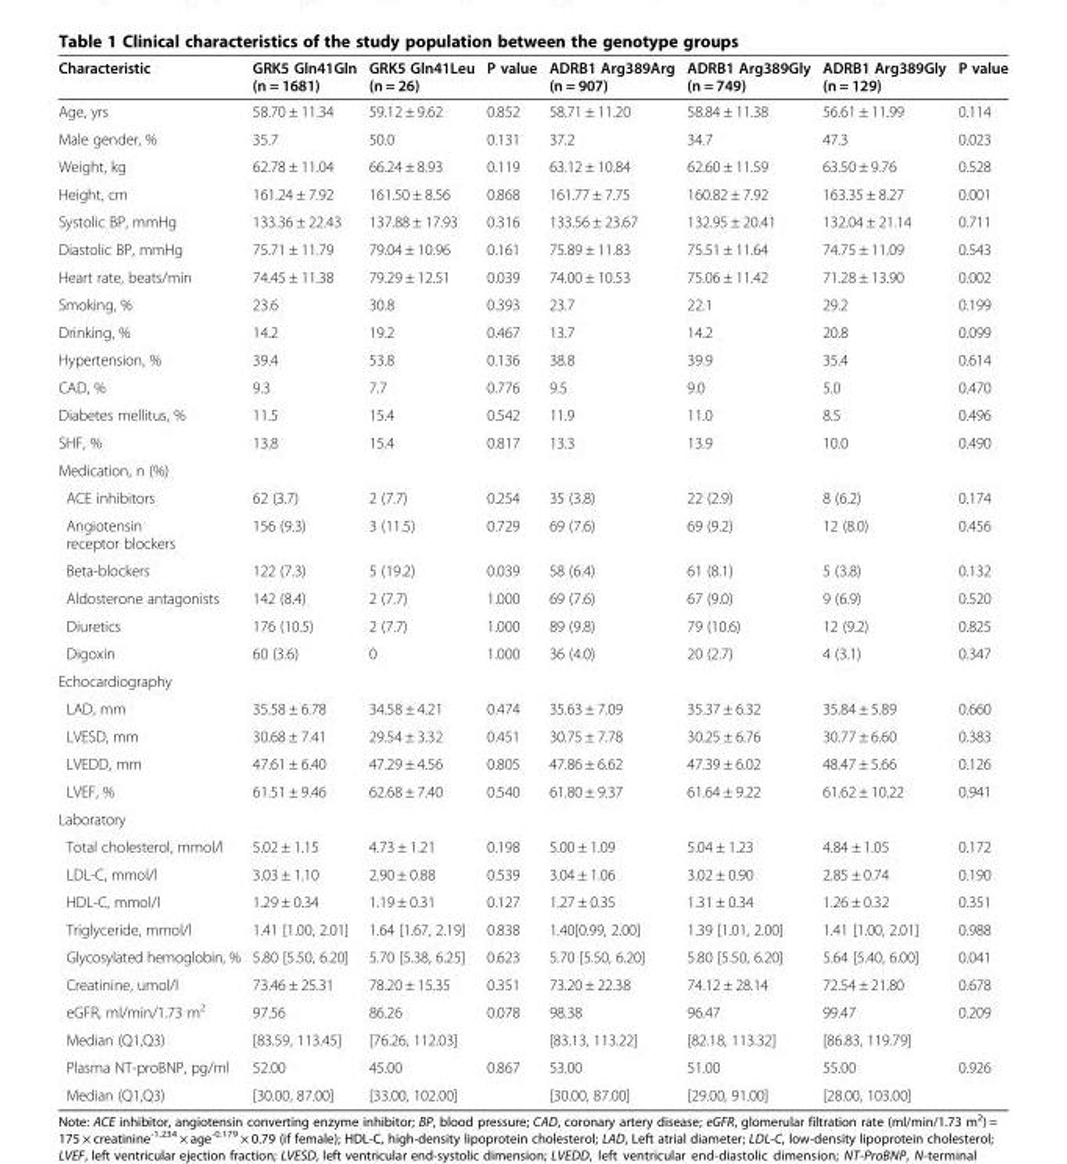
<table><thead><tr><td>Characteristic</td><td>GRK5 Gln41Gln (n = 1681)</td><td>GRK5 Gln41Leu (n = 26)</td><td>P value</td><td>ADRB1 Arg389Arg (n = 907)</td><td>ADRB1 Arg389Gly (n = 749)</td><td>ADRB1 Arg389Gly (n = 129)</td><td>P value</td></tr></thead><tbody><tr><td>Age, yrs</td><td>58.70 ± 11.34</td><td>59.12 ± 9.62</td><td>0.852</td><td>58.71 ± 11.20</td><td>58.84 ± 11.38</td><td>56.61 ± 11.99</td><td>0.114</td></tr><tr><td>Male gender, %</td><td>35.7</td><td>50.0</td><td>0.131</td><td>37.2</td><td>34.7</td><td>47.3</td><td>0.023</td></tr><tr><td>Weight, kg</td><td>62.78 ± 11.04</td><td>66.24 ± 8.93</td><td>0.119</td><td>63.12 ± 10.84</td><td>62.60 ± 11.59</td><td>63.50 ± 9.76</td><td>0.528</td></tr><tr><td>Height, cm</td><td>161.24 ± 7.92</td><td>161.50 ± 8.56</td><td>0.868</td><td>161.77 ± 7.75</td><td>160.82 ± 7.92</td><td>163.35 ± 8.27</td><td>0.001</td></tr><tr><td>Systolic BP, mmHg</td><td>133.36 ± 22.43</td><td>137.88 ± 17.93</td><td>0.316</td><td>133.56 ± 23.67</td><td>132.95 ± 20.41</td><td>132.04 ± 21.14</td><td>0.711</td></tr><tr><td>Diastolic BP, mmHg</td><td>75.71 ± 11.79</td><td>79.04 ± 10.96</td><td>0.161</td><td>75.89 ± 11.83</td><td>75.51 ± 11.64</td><td>74.75 ± 11.09</td><td>0.543</td></tr><tr><td>Heart rate, beats/min</td><td>74.45 ± 11.38</td><td>79.29 ± 12.51</td><td>0.039</td><td>74.00 ± 10.53</td><td>75.06 ± 11.42</td><td>71.28 ± 13.90</td><td>0.002</td></tr><tr><td>Smoking, %</td><td>23.6</td><td>30.8</td><td>0.393</td><td>23.7</td><td>22.1</td><td>29.2</td><td>0.199</td></tr><tr><td>Drinking, %</td><td>14.2</td><td>19.2</td><td>0.467</td><td>13.7</td><td>14.2</td><td>20.8</td><td>0.099</td></tr><tr><td>Hypertension, %</td><td>39.4</td><td>53.8</td><td>0.136</td><td>38.8</td><td>39.9</td><td>35.4</td><td>0.614</td></tr><tr><td>CAD, %</td><td>9.3</td><td>7.7</td><td>0.776</td><td>9.5</td><td>9.0</td><td>5.0</td><td>0.470</td></tr><tr><td>Diabetes mellitus, %</td><td>11.5</td><td>15.4</td><td>0.542</td><td>11.9</td><td>11.0</td><td>8.5</td><td>0.496</td></tr><tr><td>SHF, %</td><td>13.8</td><td>15.4</td><td>0.817</td><td>13.3</td><td>13.9</td><td>10.0</td><td>0.490</td></tr><tr><td colspan="8">Medication, n (%)</td></tr><tr><td>ACE inhibitors</td><td>62 (3.7)</td><td>2 (7.7)</td><td>0.254</td><td>35 (3.8)</td><td>22 (2.9)</td><td>8 (6.2)</td><td>0.174</td></tr><tr><td>Angiotensin receptor blockers</td><td>156 (9.3)</td><td>3 (11.5)</td><td>0.729</td><td>69 (7.6)</td><td>69 (9.2)</td><td>12 (8.0)</td><td>0.456</td></tr><tr><td>Beta-blockers</td><td>122 (7.3)</td><td>5 (19.2)</td><td>0.039</td><td>58 (6.4)</td><td>61 (8.1)</td><td>5 (3.8)</td><td>0.132</td></tr><tr><td>Aldosterone antagonists</td><td>142 (8.4)</td><td>2 (7.7)</td><td>1.000</td><td>69 (7.6)</td><td>67 (9.0)</td><td>9 (6.9)</td><td>0.520</td></tr><tr><td>Diuretics</td><td>176 (10.5)</td><td>2 (7.7)</td><td>1.000</td><td>89 (9.8)</td><td>79 (10.6)</td><td>12 (9.2)</td><td>0.825</td></tr><tr><td>Digoxin</td><td>60 (3.6)</td><td>0</td><td>1.000</td><td>36 (4.0)</td><td>20 (2.7)</td><td>4 (3.1)</td><td>0.347</td></tr><tr><td colspan="8">Echocardiography</td></tr><tr><td>LAD, mm</td><td>35.58 ± 6.78</td><td>34.58 ± 4.21</td><td>0.474</td><td>35.63 ± 7.09</td><td>35.37 ± 6.32</td><td>35.84 ± 5.89</td><td>0.660</td></tr><tr><td>LVESD, mm</td><td>30.68 ± 7.41</td><td>29.54 ± 3.32</td><td>0.451</td><td>30.75 ± 7.78</td><td>30.25 ± 6.76</td><td>30.77 ± 6.60</td><td>0.383</td></tr><tr><td>LVEDD, mm</td><td>47.61 ± 6.40</td><td>47.29 ± 4.56</td><td>0.805</td><td>47.86 ± 6.62</td><td>47.39 ± 6.02</td><td>48.47 ± 5.66</td><td>0.126</td></tr><tr><td>LVEF, %</td><td>61.51 ± 9.46</td><td>62.68 ± 7.40</td><td>0.540</td><td>61.80 ± 9.37</td><td>61.64 ± 9.22</td><td>61.62 ± 10.22</td><td>0.941</td></tr><tr><td colspan="8">Laboratory</td></tr><tr><td>Total cholesterol, mmol/l</td><td>5.02 ± 1.15</td><td>4.73 ± 1.21</td><td>0.198</td><td>5.00 ± 1.09</td><td>5.04 ± 1.23</td><td>4.84 ± 1.05</td><td>0.172</td></tr><tr><td>LDL-C, mmol/l</td><td>3.03 ± 1.10</td><td>2.90 ± 0.88</td><td>0.539</td><td>3.04 ± 1.06</td><td>3.02 ± 0.90</td><td>2.85 ± 0.74</td><td>0.190</td></tr><tr><td>HDL-C, mmol/l</td><td>1.29 ± 0.34</td><td>1.19 ± 0.31</td><td>0.127</td><td>1.27 ± 0.35</td><td>1.31 ± 0.34</td><td>1.26 ± 0.32</td><td>0.351</td></tr><tr><td>Triglyceride, mmol/l</td><td>1.41 [1.00, 2.01]</td><td>1.64 [1.67, 2.19]</td><td>0.838</td><td>1.40[0.99, 2.00]</td><td>1.39 [1.01, 2.00]</td><td>1.41 [1.00, 2.01]</td><td>0.988</td></tr><tr><td>Glycosylated hemoglobin, %</td><td>5.80 [5.50, 6.20]</td><td>5.70 [5.38, 6.25]</td><td>0.623</td><td>5.70 [5.50, 6.20]</td><td>5.80 [5.50, 6.20]</td><td>5.64 [5.40, 6.00]</td><td>0.041</td></tr><tr><td>Creatinine, umol/l</td><td>73.46 ± 25.31</td><td>78.20 ± 15.35</td><td>0.351</td><td>73.20 ± 22.38</td><td>74.12 ± 28.14</td><td>72.54 ± 21.80</td><td>0.678</td></tr><tr><td>eGFR, ml/min/1.73 m<sup>2</sup></td><td>97.56</td><td>86.26</td><td>0.078</td><td>98.38</td><td>96.47</td><td>99.47</td><td>0.209</td></tr><tr><td>Median (Q1,Q3)</td><td>[83.59, 113.45]</td><td>[76.26, 112.03]</td><td></td><td>[83.13, 113.22]</td><td>[82.18, 113.32]</td><td>[86.83, 119.79]</td><td></td></tr><tr><td>Plasma NT-proBNP, pg/ml</td><td>52.00</td><td>45.00</td><td>0.867</td><td>53.00</td><td>51.00</td><td>55.00</td><td>0.926</td></tr><tr><td>Median (Q1,Q3)</td><td>[30.00, 87.00]</td><td>[33.00, 102.00]</td><td></td><td>[30.00, 87.00]</td><td>[29.00, 91.00]</td><td>[28.00, 103.00]</td><td></td></tr></tbody></table>